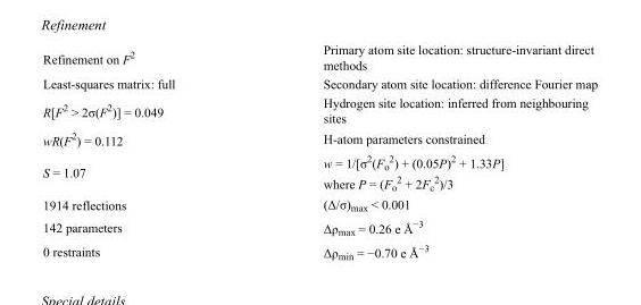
<table><tbody><tr><td>Refinement on F<sup>2</sup></td><td>Primary atom site location: structure-invariant direct methods</td></tr><tr><td>Least-squares matrix: full</td><td>Secondary atom site location: difference Fourier map</td></tr><tr><td>R[F<sup>2</sup> &gt; 2σ(F<sup>2</sup>)] = 0.049</td><td>Hydrogen site location: inferred from neighbouring sites</td></tr><tr><td>wR(F<sup>2</sup>) = 0.112</td><td>H-atom parameters constrained</td></tr><tr><td>S = 1.07</td><td>w = 1/[σ<sup>2</sup>(F<sub>o</sub> <sup>2</sup>) + (0.05P)<sup>2</sup> + 1.33P] where P = (F<sub>o</sub> <sup>2</sup> + 2F<sub>c</sub> <sup>2</sup>)/3</td></tr><tr><td>1914 reflections</td><td>(Δ/σ)<sub>max</sub> &lt; 0.001</td></tr><tr><td>142 parameters</td><td>Δρ<sub>max</sub> = 0.26 e Å<sup>−3</sup></td></tr><tr><td>0 restraints</td><td>Δρ<sub>min</sub> = −0.70 e Å<sup>−3</sup></td></tr></tbody></table>